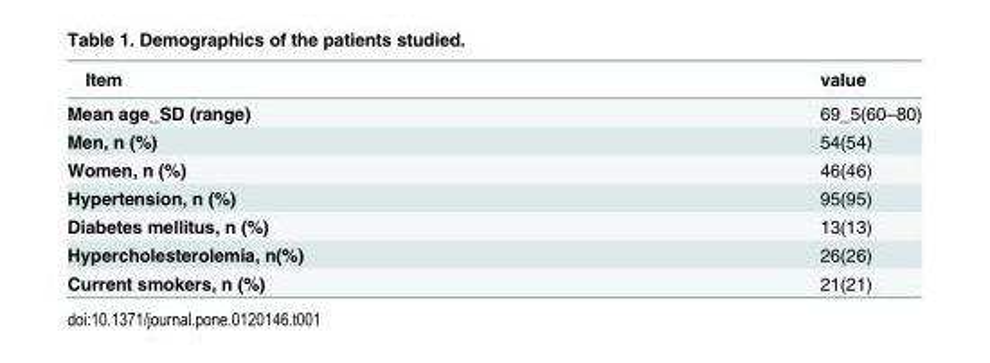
<table><thead><tr><td>Item</td><td>value</td></tr></thead><tbody><tr><td>Mean age_SD (range)</td><td>69_5(60–80)</td></tr><tr><td>Men, n (%)</td><td>54(54)</td></tr><tr><td>Women, n (%)</td><td>46(46)</td></tr><tr><td>Hypertension, n (%)</td><td>95(95)</td></tr><tr><td>Diabetes mellitus, n (%)</td><td>13(13)</td></tr><tr><td>Hypercholesterolemia, n(%)</td><td>26(26)</td></tr><tr><td>Current smokers, n (%)</td><td>21(21)</td></tr></tbody></table>